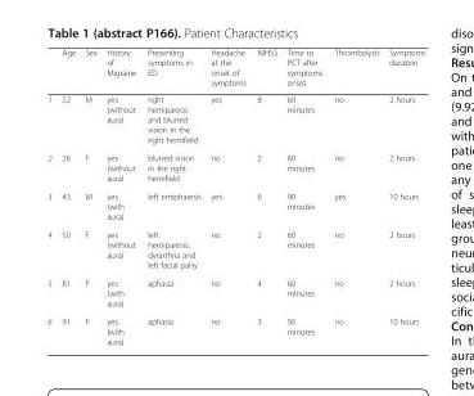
<table><thead><tr><td></td><td>Age</td><td>Sex</td><td>History of Migraine</td><td>Presenting symptoms in ED</td><td>Headache at the onset of symptoms</td><td>NIHSS</td><td>Time to PCT after symptoms onset</td><td>Thrombolysis</td><td>Symptoms duration</td></tr></thead><tbody><tr><td>1</td><td>22</td><td>M</td><td>yes (without aura)</td><td>right hemiparesis and blurred vision in the right hemifield</td><td>yes</td><td>8</td><td>60 minutes</td><td>no</td><td>2 hours</td></tr><tr><td>2</td><td>26</td><td>F</td><td>yes (without aura)</td><td>blurred vision in the right hemifield</td><td>no</td><td>2</td><td>60 minutes</td><td>no</td><td>2 hours</td></tr><tr><td>3</td><td>43</td><td>M</td><td>yes (with aura)</td><td>left emipharesis</td><td>yes</td><td>6</td><td>90 minutes</td><td>yes</td><td>10 hours</td></tr><tr><td>4</td><td>50</td><td>F</td><td>yes (without aura)</td><td>left hemiparesis, dyrarthria and left facial palsy</td><td>no</td><td>2</td><td>60 minutes</td><td>no</td><td>2 hours</td></tr><tr><td>5</td><td>81</td><td>F</td><td>yes (with aura)</td><td>aphasia</td><td>no</td><td>4</td><td>60 minutes</td><td>no</td><td>2 hours</td></tr><tr><td>6</td><td>91</td><td>F</td><td>yes (with aura)</td><td>aphasia</td><td>no</td><td>3</td><td>90 minutes</td><td>no</td><td>10 hours</td></tr></tbody></table>